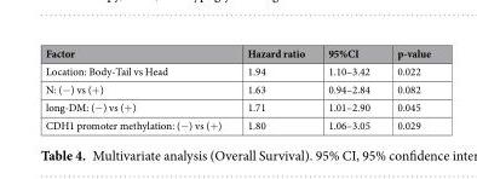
<table><thead><tr><td>Factor</td><td>Hazard ratio</td><td>95%CI</td><td>p-value</td></tr></thead><tbody><tr><td>Location: Body-Tail vs Head</td><td>1.94</td><td>1.10–3.42</td><td>0.022</td></tr><tr><td>N: (−) vs (+)</td><td>1.63</td><td>0.94–2.84</td><td>0.082</td></tr><tr><td>long-DM: (−) vs (+)</td><td>1.71</td><td>1.01–2.90</td><td>0.045</td></tr><tr><td>CDH1 promoter methylation: (−) vs (+)</td><td>1.80</td><td>1.06–3.05</td><td>0.029</td></tr></tbody></table>